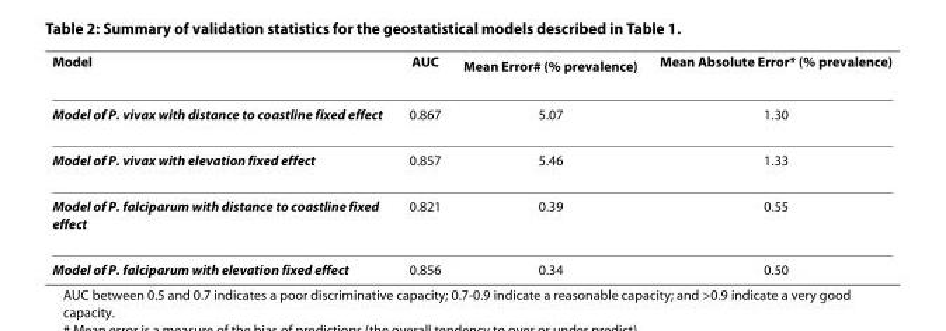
<table><thead><tr><td>Model</td><td>AUC</td><td>Mean Error<sup>#</sup> (% prevalence)</td><td>Mean Absolute Error* (% prevalence)</td></tr></thead><tbody><tr><td>Model of P. vivax with distance to coastline fixed effect</td><td>0.867</td><td>5.07</td><td>1.30</td></tr><tr><td>Model of P. vivax with elevation fixed effect</td><td>0.857</td><td>5.46</td><td>1.33</td></tr><tr><td>Model of P. falciparum with distance to coastline fixed effect</td><td>0.821</td><td>0.39</td><td>0.55</td></tr><tr><td>Model of P. falciparum with elevation fixed effect</td><td>0.856</td><td>0.34</td><td>0.50</td></tr></tbody></table>